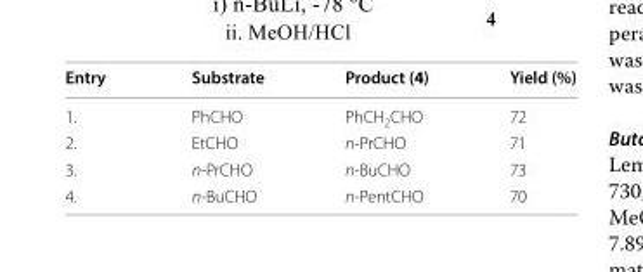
<table><thead><tr><td>Entry</td><td>Substrate</td><td>Product (4)</td><td>Yield (%)</td></tr></thead><tbody><tr><td>1.</td><td>PhCHO</td><td>PhCH<sub>2</sub>CHO</td><td>72</td></tr><tr><td>2.</td><td>EtCHO</td><td>n-PrCHO</td><td>71</td></tr><tr><td>3.</td><td>n-PrCHO</td><td>n-BuCHO</td><td>73</td></tr><tr><td>4.</td><td>n-BuCHO</td><td>n-PentCHO</td><td>70</td></tr></tbody></table>